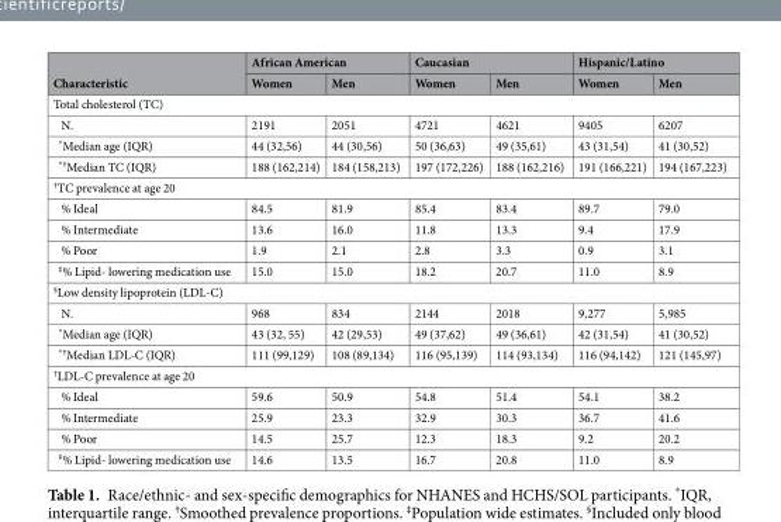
<table><thead><tr><td rowspan="2">Characteristic</td><td colspan="2">African American</td><td colspan="2">Caucasian</td><td colspan="2">Hispanic/Latino</td></tr><tr><td>Women</td><td>Men</td><td>Women</td><td>Men</td><td>Women</td><td>Men</td></tr></thead><tbody><tr><td colspan="7">Total cholesterol (TC)</td></tr><tr><td>N.</td><td>2191</td><td>2051</td><td>4721</td><td>4621</td><td>9405</td><td>6207</td></tr><tr><td>*Median age (IQR)</td><td>44 (32,56)</td><td>44 (30,56)</td><td>50 (36,63)</td><td>49 (35,61)</td><td>43 (31,54)</td><td>41 (30,52)</td></tr><tr><td><sup>*†</sup>Median TC (IQR)</td><td>188 (162,214)</td><td>184 (158,213)</td><td>197 (172,226)</td><td>188 (162,216)</td><td>191 (166,221)</td><td>194 (167,223)</td></tr><tr><td colspan="7"><sup>†</sup>TC prevalence at age 20</td></tr><tr><td>% Ideal</td><td>84.5</td><td>81.9</td><td>85.4</td><td>83.4</td><td>89.7</td><td>79.0</td></tr><tr><td>% Intermediate</td><td>13.6</td><td>16.0</td><td>11.8</td><td>13.3</td><td>9.4</td><td>17.9</td></tr><tr><td>% Poor</td><td>1.9</td><td>2.1</td><td>2.8</td><td>3.3</td><td>0.9</td><td>3.1</td></tr><tr><td><sup>‡</sup>% Lipid- lowering medication use</td><td>15.0</td><td>15.0</td><td>18.2</td><td>20.7</td><td>11.0</td><td>8.9</td></tr><tr><td colspan="7"><sup>§</sup>Low density lipoprotein (LDL-C)</td></tr><tr><td>N.</td><td>968</td><td>834</td><td>2144</td><td>2018</td><td>9,277</td><td>5,985</td></tr><tr><td>*Median age (IQR)</td><td>43 (32, 55)</td><td>42 (29,53)</td><td>49 (37,62)</td><td>49 (36,61)</td><td>42 (31,54)</td><td>41 (30,52)</td></tr><tr><td><sup>*†</sup>Median LDL-C (IQR)</td><td>111 (99,129)</td><td>108 (89,134)</td><td>116 (95,139)</td><td>114 (93,134)</td><td>116 (94,142)</td><td>121 (145,97)</td></tr><tr><td colspan="7"><sup>†</sup>LDL-C prevalence at age 20</td></tr><tr><td>% Ideal</td><td>59.6</td><td>50.9</td><td>54.8</td><td>51.4</td><td>54.1</td><td>38.2</td></tr><tr><td>% Intermediate</td><td>25.9</td><td>23.3</td><td>32.9</td><td>30.3</td><td>36.7</td><td>41.6</td></tr><tr><td>% Poor</td><td>14.5</td><td>25.7</td><td>12.3</td><td>18.3</td><td>9.2</td><td>20.2</td></tr><tr><td><sup>‡</sup>% Lipid- lowering medication use</td><td>14.6</td><td>13.5</td><td>16.7</td><td>20.8</td><td>11.0</td><td>8.9</td></tr></tbody></table>